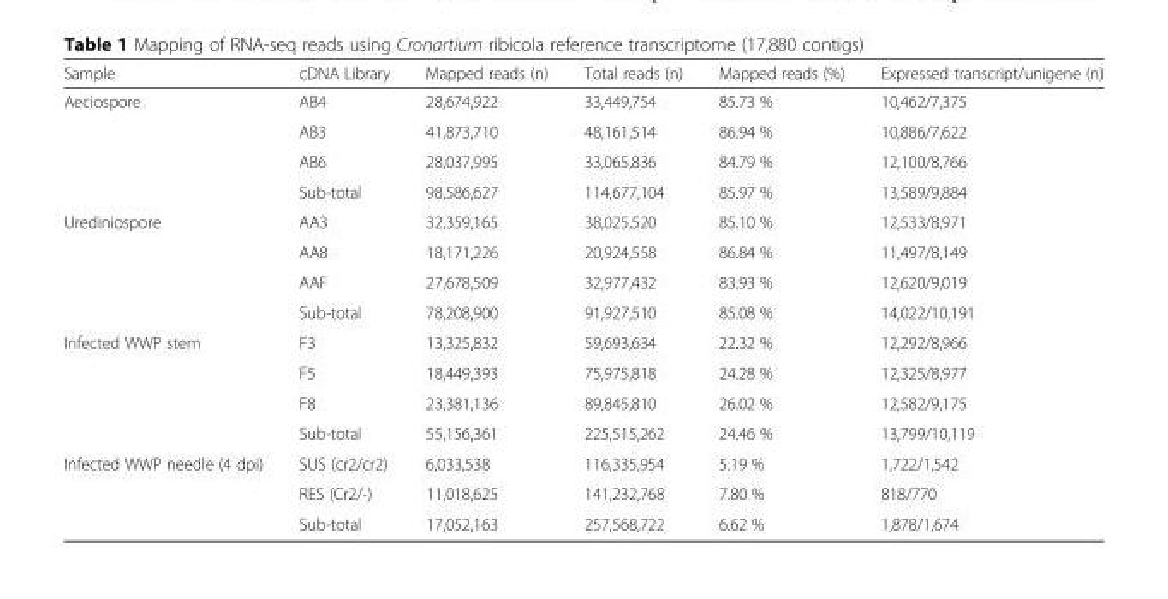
<table><thead><tr><td>Sample</td><td>cDNA Library</td><td>Mapped reads (n)</td><td>Total reads (n)</td><td>Mapped reads (%)</td><td>Expressed transcript/unigene (n)</td></tr></thead><tbody><tr><td rowspan="4">Aeciospore</td><td>AB4</td><td>28,674,922</td><td>33,449,754</td><td>85.73 %</td><td>10,462/7,375</td></tr><tr><td>AB3</td><td>41,873,710</td><td>48,161,514</td><td>86.94 %</td><td>10,886/7,622</td></tr><tr><td>AB6</td><td>28,037,995</td><td>33,065,836</td><td>84.79 %</td><td>12,100/8,766</td></tr><tr><td>Sub-total</td><td>98,586,627</td><td>114,677,104</td><td>85.97 %</td><td>13,589/9,884</td></tr><tr><td rowspan="4">Urediniospore</td><td>AA3</td><td>32,359,165</td><td>38,025,520</td><td>85.10 %</td><td>12,533/8,971</td></tr><tr><td>AA8</td><td>18,171,226</td><td>20,924,558</td><td>86.84 %</td><td>11,497/8,149</td></tr><tr><td>AAF</td><td>27,678,509</td><td>32,977,432</td><td>83.93 %</td><td>12,620/9,019</td></tr><tr><td>Sub-total</td><td>78,208,900</td><td>91,927,510</td><td>85.08 %</td><td>14,022/10,191</td></tr><tr><td rowspan="4">Infected WWP stem</td><td>F3</td><td>13,325,832</td><td>59,693,634</td><td>22.32 %</td><td>12,292/8,966</td></tr><tr><td>F5</td><td>18,449,393</td><td>75,975,818</td><td>24.28 %</td><td>12,325/8,977</td></tr><tr><td>F8</td><td>23,381,136</td><td>89,845,810</td><td>26.02 %</td><td>12,582/9,175</td></tr><tr><td>Sub-total</td><td>55,156,361</td><td>225,515,262</td><td>24.46 %</td><td>13,799/10,119</td></tr><tr><td rowspan="3">Infected WWP needle (4 dpi)</td><td>SUS (cr2/cr2)</td><td>6,033,538</td><td>116,335,954</td><td>5.19 %</td><td>1,722/1,542</td></tr><tr><td>RES (Cr2/-)</td><td>11,018,625</td><td>141,232,768</td><td>7.80 %</td><td>818/770</td></tr><tr><td>Sub-total</td><td>17,052,163</td><td>257,568,722</td><td>6.62 %</td><td>1,878/1,674</td></tr></tbody></table>